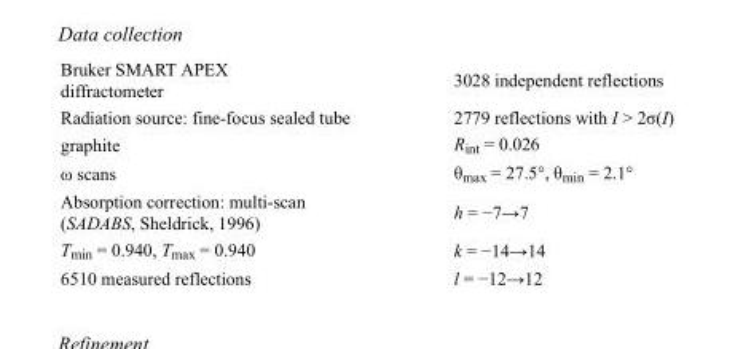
<table><tbody><tr><td>Bruker SMART APEX diffractometer</td><td>3028 independent reflections</td></tr><tr><td>Radiation source: fine-focus sealed tube</td><td>2779 reflections with I &gt; 2σ(I)</td></tr><tr><td>graphite</td><td>R<sub>int</sub> = 0.026</td></tr><tr><td>ω scans</td><td>θ<sub>max</sub> = 27.5°, θ<sub>min</sub> = 2.1°</td></tr><tr><td>Absorption correction: multi-scan (SADABS, Sheldrick, 1996)</td><td>h = −7→7</td></tr><tr><td>T<sub>min</sub> = 0.940, T<sub>max</sub> = 0.940</td><td>k = −14→14</td></tr><tr><td>6510 measured reflections</td><td>l = −12→12</td></tr></tbody></table>